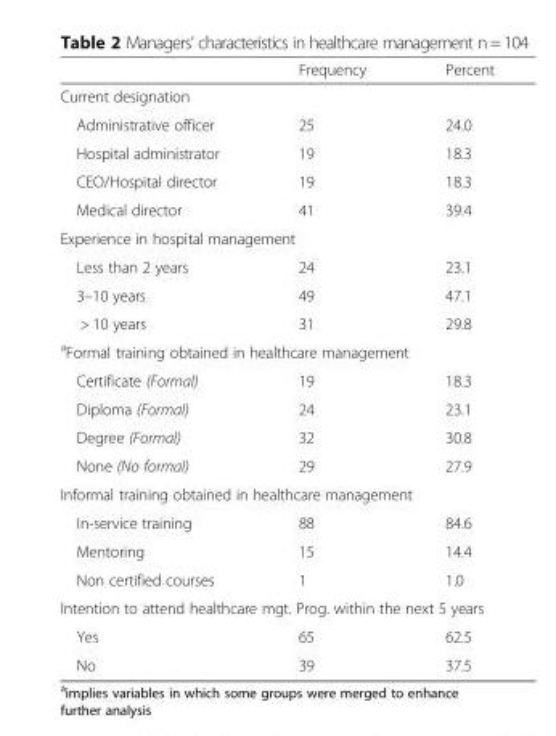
<table><thead><tr><td></td><td>Frequency</td><td>Percent</td></tr></thead><tbody><tr><td colspan="3">Current designation</td></tr><tr><td>Administrative officer</td><td>25</td><td>24.0</td></tr><tr><td>Hospital administrator</td><td>19</td><td>18.3</td></tr><tr><td>CEO/Hospital director</td><td>19</td><td>18.3</td></tr><tr><td>Medical director</td><td>41</td><td>39.4</td></tr><tr><td colspan="3">Experience in hospital management</td></tr><tr><td>Less than 2 years</td><td>24</td><td>23.1</td></tr><tr><td>3–10 years</td><td>49</td><td>47.1</td></tr><tr><td>&gt; 10 years</td><td>31</td><td>29.8</td></tr><tr><td colspan="3"><sup>a</sup>Formal training obtained in healthcare management</td></tr><tr><td>Certificate (Formal)</td><td>19</td><td>18.3</td></tr><tr><td>Diploma (Formal)</td><td>24</td><td>23.1</td></tr><tr><td>Degree (Formal)</td><td>32</td><td>30.8</td></tr><tr><td>None (No formal)</td><td>29</td><td>27.9</td></tr><tr><td colspan="3">Informal training obtained in healthcare management</td></tr><tr><td>In-service training</td><td>88</td><td>84.6</td></tr><tr><td>Mentoring</td><td>15</td><td>14.4</td></tr><tr><td>Non certified courses</td><td>1</td><td>1.0</td></tr><tr><td colspan="3">Intention to attend healthcare mgt. Prog. within the next 5 years</td></tr><tr><td>Yes</td><td>65</td><td>62.5</td></tr><tr><td>No</td><td>39</td><td>37.5</td></tr></tbody></table>